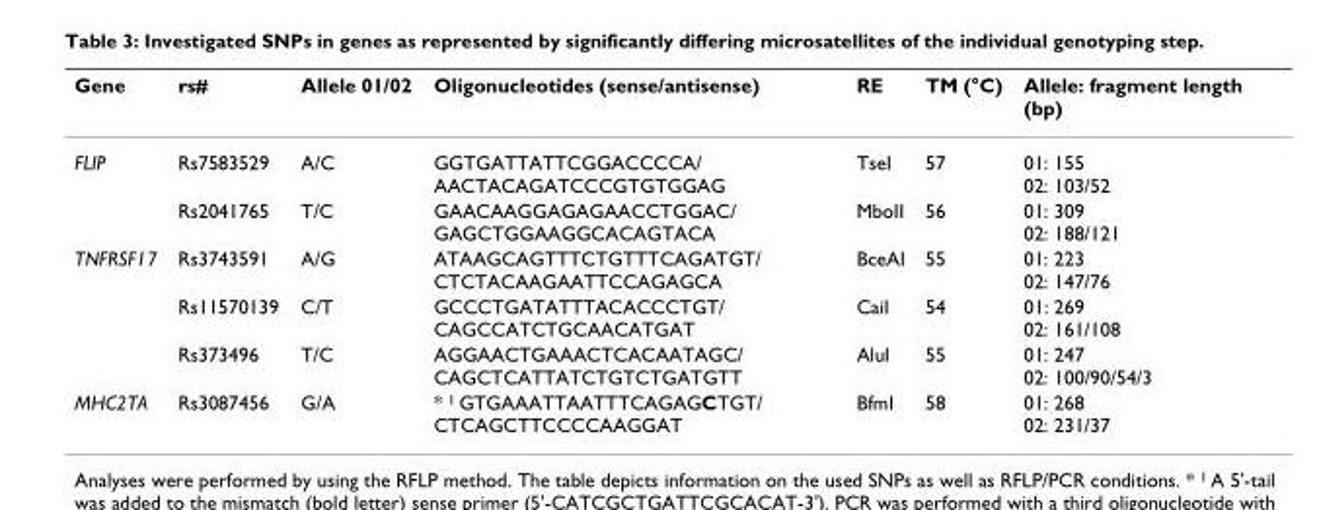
<table><thead><tr><td>Gene</td><td>rs#</td><td>Allele 01/02</td><td>Oligonucleotides (sense/antisense)</td><td>RE</td><td>TM (°C)</td><td>Allele: fragment length (bp)</td></tr></thead><tbody><tr><td rowspan="2">FLIP</td><td>Rs7583529</td><td>A/C</td><td>GGTGATTATTCGGACCCCA/ AACTACAGATCCCGTGTGGAG</td><td>TseI</td><td>57</td><td>01: 155 02: 103/52</td></tr><tr><td>Rs2041765</td><td>T/C</td><td>GAACAAGGAGAGAACCTGGAC/ GAGCTGGAAGGCACAGTACA</td><td>MboII</td><td>56</td><td>01: 309 02: 188/121</td></tr><tr><td rowspan="3">TNFRSF17</td><td>Rs3743591</td><td>A/G</td><td>ATAAGCAGTTTCTGTTTCAGATGT/ CTCTACAAGAATTCCAGAGCA</td><td>BceAI</td><td>55</td><td>01: 223 02: 147/76</td></tr><tr><td>Rs11570139</td><td>C/T</td><td>GCCCTGATATTTACACCCTGT/ CAGCCATCTGCAACATGAT</td><td>CaiI</td><td>54</td><td>01: 269 02: 161/108</td></tr><tr><td>Rs373496</td><td>T/C</td><td>AGGAACTGAAACTCACAATAGC/ CAGCTCATTATCTGTCTGATGTT</td><td>AluI</td><td>55</td><td>01: 247 02: 100/90/54/3</td></tr><tr><td>MHC2TA</td><td>Rs3087456</td><td>G/A</td><td>* <sup>1</sup> GTGAAATTAATTTCAGAGCTGT/ CTCAGCTTCCCCAAGGAT</td><td>BfmI</td><td>58</td><td>01: 268 02: 231/37</td></tr></tbody></table>